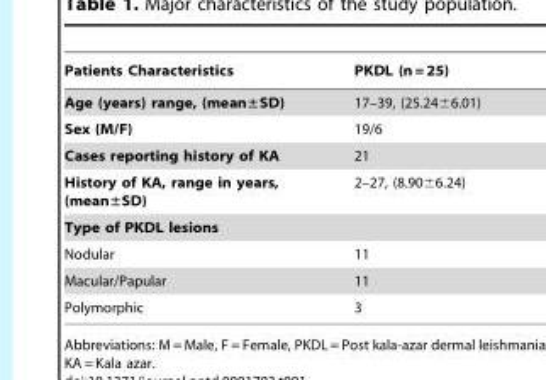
<table><thead><tr><td>Patients Characteristics</td><td>PKDL (n = 25)</td></tr></thead><tbody><tr><td>Age (years) range, (mean±SD)</td><td>17–39, (25.24±6.01)</td></tr><tr><td>Sex (M/F)</td><td>19/6</td></tr><tr><td>Cases reporting history of KA</td><td>21</td></tr><tr><td>History of KA, range in years, (mean±SD)</td><td>2–27, (8.90±6.24)</td></tr><tr><td colspan="2">Type of PKDL lesions</td></tr><tr><td>Nodular</td><td>11</td></tr><tr><td>Macular/Papular</td><td>11</td></tr><tr><td>Polymorphic</td><td>3</td></tr></tbody></table>